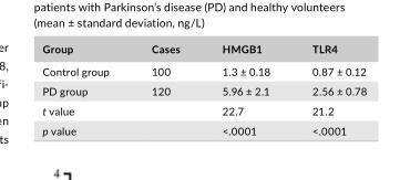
<table><thead><tr><td>Group</td><td>Cases</td><td>HMGB1</td><td>TLR4</td></tr></thead><tbody><tr><td>Control group</td><td>100</td><td>1.3 ± 0.18</td><td>0.87 ± 0.12</td></tr><tr><td>PD group</td><td>120</td><td>5.96 ± 2.1</td><td>2.56 ± 0.78</td></tr><tr><td>t value</td><td></td><td>22.7</td><td>21.2</td></tr><tr><td>p value</td><td></td><td>&lt;.0001</td><td>&lt;.0001</td></tr></tbody></table>